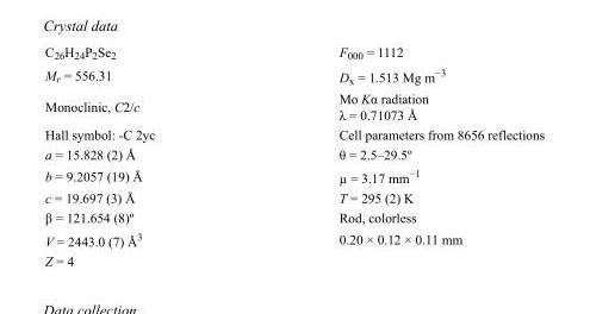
<table><tbody><tr><td>C<sub>26</sub>H<sub>24</sub>P<sub>2</sub>Se<sub>2</sub></td><td>F000 = 1112</td></tr><tr><td>M<sub>r</sub> = 556.31</td><td>D<sub>x</sub> = 1.513 Mg m<sup>−3</sup></td></tr><tr><td>Monoclinic, C2/c</td><td>Mo Kα radiation λ = 0.71073 Å</td></tr><tr><td>Hall symbol: -C 2yc</td><td>Cell parameters from 8656 reflections</td></tr><tr><td>a = 15.828 (2) Å</td><td>θ = 2.5–29.5º</td></tr><tr><td>b = 9.2057 (19) Å</td><td>µ = 3.17 mm<sup>−1</sup></td></tr><tr><td>c = 19.697 (3) Å</td><td>T = 295 (2) K</td></tr><tr><td>β = 121.654 (8)º</td><td>Rod, colorless</td></tr><tr><td>V = 2443.0 (7) Å<sup>3</sup></td><td>0.20 × 0.12 × 0.11 mm</td></tr><tr><td>Z = 4</td><td></td></tr></tbody></table>